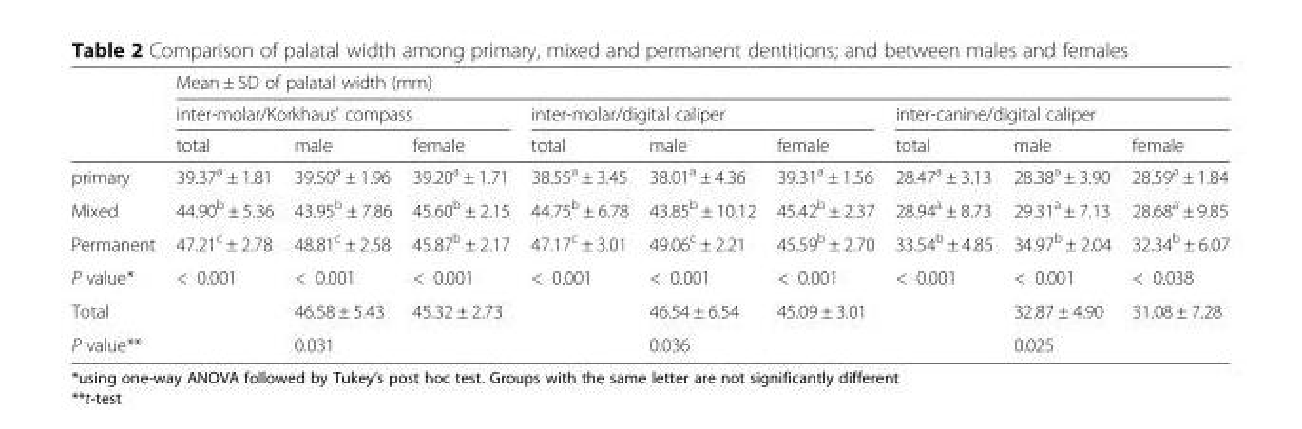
<table><thead><tr><td rowspan="3"></td><td colspan="9">Mean ± SD of palatal width (mm)</td></tr><tr><td colspan="3">inter-molar/Korkhaus’ compass</td><td colspan="3">inter-molar/digital caliper</td><td colspan="3">inter-canine/digital caliper</td></tr><tr><td>total</td><td>male</td><td>female</td><td>total</td><td>male</td><td>female</td><td>total</td><td>male</td><td>female</td></tr></thead><tbody><tr><td>primary</td><td>39.37<sup>a</sup> ± 1.81</td><td>39.50<sup>a</sup> ± 1.96</td><td>39.20<sup>a</sup> ± 1.71</td><td>38.55<sup>a</sup> ± 3.45</td><td>38.01<sup>a</sup> ± 4.36</td><td>39.31<sup>a</sup> ± 1.56</td><td>28.47<sup>a</sup> ± 3.13</td><td>28.38<sup>a</sup> ± 3.90</td><td>28.59<sup>a</sup> ± 1.84</td></tr><tr><td>Mixed</td><td>44.90<sup>b</sup> ± 5.36</td><td>43.95<sup>b</sup> ± 7.86</td><td>45.60<sup>b</sup> ± 2.15</td><td>44.75<sup>b</sup> ± 6.78</td><td>43.85<sup>b</sup> ± 10.12</td><td>45.42<sup>b</sup> ± 2.37</td><td>28.94<sup>a</sup> ± 8.73</td><td>29.31<sup>a</sup> ± 7.13</td><td>28.68<sup>a</sup> ± 9.85</td></tr><tr><td>Permanent</td><td>47.21<sup>c</sup> ± 2.78</td><td>48.81<sup>c</sup> ± 2.58</td><td>45.87<sup>b</sup> ± 2.17</td><td>47.17<sup>c</sup> ± 3.01</td><td>49.06<sup>c</sup> ± 2.21</td><td>45.59<sup>b</sup> ± 2.70</td><td>33.54<sup>b</sup> ± 4.85</td><td>34.97<sup>b</sup> ± 2.04</td><td>32.34<sup>b</sup> ± 6.07</td></tr><tr><td>P value*</td><td>&lt; 0.001</td><td>&lt; 0.001</td><td>&lt; 0.001</td><td>&lt; 0.001</td><td>&lt; 0.001</td><td>&lt; 0.001</td><td>&lt; 0.001</td><td>&lt; 0.001</td><td>&lt; 0.038</td></tr><tr><td>Total</td><td></td><td>46.58 ± 5.43</td><td>45.32 ± 2.73</td><td></td><td>46.54 ± 6.54</td><td>45.09 ± 3.01</td><td></td><td>32.87 ± 4.90</td><td>31.08 ± 7.28</td></tr><tr><td>P value**</td><td></td><td colspan="2">0.031</td><td></td><td colspan="2">0.036</td><td></td><td colspan="2">0.025</td></tr></tbody></table>